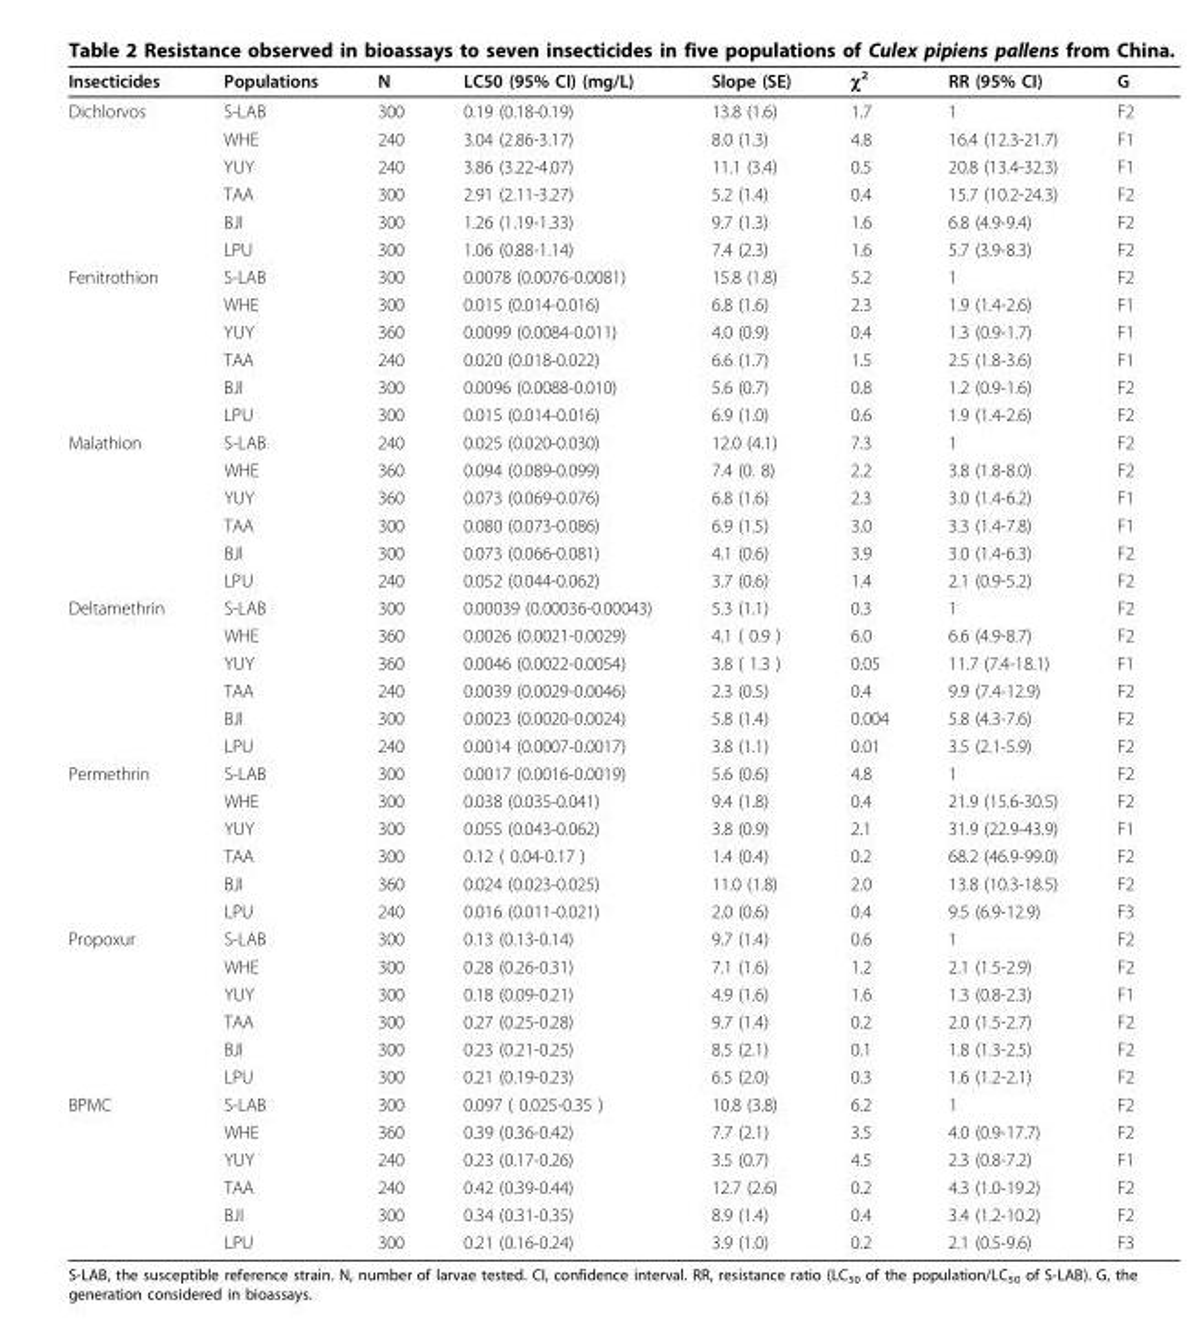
<table><thead><tr><td>Insecticides</td><td>Populations</td><td>N</td><td>LC50 (95% CI) (mg/L)</td><td>Slope (SE)</td><td>χ<sup>2</sup></td><td>RR (95% CI)</td><td>G</td></tr></thead><tbody><tr><td rowspan="6">Dichlorvos</td><td>S-LAB</td><td>300</td><td>0.19 (0.18-0.19)</td><td>13.8 (1.6)</td><td>1.7</td><td>1</td><td>F2</td></tr><tr><td>WHE</td><td>240</td><td>3.04 (2.86-3.17)</td><td>8.0 (1.3)</td><td>4.8</td><td>16.4 (12.3-21.7)</td><td>F1</td></tr><tr><td>YUY</td><td>240</td><td>3.86 (3.22-4.07)</td><td>11.1 (3.4)</td><td>0.5</td><td>20.8 (13.4-32.3)</td><td>F1</td></tr><tr><td>TAA</td><td>300</td><td>2.91 (2.11-3.27)</td><td>5.2 (1.4)</td><td>0.4</td><td>15.7 (10.2-24.3)</td><td>F2</td></tr><tr><td>BJI</td><td>300</td><td>1.26 (1.19-1.33)</td><td>9.7 (1.3)</td><td>1.6</td><td>6.8 (4.9-9.4)</td><td>F2</td></tr><tr><td>LPU</td><td>300</td><td>1.06 (0.88-1.14)</td><td>7.4 (2.3)</td><td>1.6</td><td>5.7 (3.9-8.3)</td><td>F2</td></tr><tr><td rowspan="6">Fenitrothion</td><td>S-LAB</td><td>300</td><td>0.0078 (0.0076-0.0081)</td><td>15.8 (1.8)</td><td>5.2</td><td>1</td><td>F2</td></tr><tr><td>WHE</td><td>300</td><td>0.015 (0.014-0.016)</td><td>6.8 (1.6)</td><td>2.3</td><td>1.9 (1.4-2.6)</td><td>F1</td></tr><tr><td>YUY</td><td>360</td><td>0.0099 (0.0084-0.011)</td><td>4.0 (0.9)</td><td>0.4</td><td>1.3 (0.9-1.7)</td><td>F1</td></tr><tr><td>TAA</td><td>240</td><td>0.020 (0.018-0.022)</td><td>6.6 (1.7)</td><td>1.5</td><td>2.5 (1.8-3.6)</td><td>F1</td></tr><tr><td>BJI</td><td>300</td><td>0.0096 (0.0088-0.010)</td><td>5.6 (0.7)</td><td>0.8</td><td>1.2 (0.9-1.6)</td><td>F2</td></tr><tr><td>LPU</td><td>300</td><td>0.015 (0.014-0.016)</td><td>6.9 (1.0)</td><td>0.6</td><td>1.9 (1.4-2.6)</td><td>F2</td></tr><tr><td rowspan="6">Malathion</td><td>S-LAB</td><td>240</td><td>0.025 (0.020-0.030)</td><td>12.0 (4.1)</td><td>7.3</td><td>1</td><td>F2</td></tr><tr><td>WHE</td><td>360</td><td>0.094 (0.089-0.099)</td><td>7.4 (0. 8)</td><td>2.2</td><td>3.8 (1.8-8.0)</td><td>F2</td></tr><tr><td>YUY</td><td>360</td><td>0.073 (0.069-0.076)</td><td>6.8 (1.6)</td><td>2.3</td><td>3.0 (1.4-6.2)</td><td>F1</td></tr><tr><td>TAA</td><td>300</td><td>0.080 (0.073-0.086)</td><td>6.9 (1.5)</td><td>3.0</td><td>3.3 (1.4-7.8)</td><td>F1</td></tr><tr><td>BJI</td><td>300</td><td>0.073 (0.066-0.081)</td><td>4.1 (0.6)</td><td>3.9</td><td>3.0 (1.4-6.3)</td><td>F2</td></tr><tr><td>LPU</td><td>240</td><td>0.052 (0.044-0.062)</td><td>3.7 (0.6)</td><td>1.4</td><td>2.1 (0.9-5.2)</td><td>F2</td></tr><tr><td rowspan="6">Deltamethrin</td><td>S-LAB</td><td>300</td><td>0.00039 (0.00036-0.00043)</td><td>5.3 (1.1)</td><td>0.3</td><td>1</td><td>F2</td></tr><tr><td>WHE</td><td>360</td><td>0.0026 (0.0021-0.0029)</td><td>4.1 ( 0.9 )</td><td>6.0</td><td>6.6 (4.9-8.7)</td><td>F2</td></tr><tr><td>YUY</td><td>360</td><td>0.0046 (0.0022-0.0054)</td><td>3.8 ( 1.3 )</td><td>0.05</td><td>11.7 (7.4-18.1)</td><td>F1</td></tr><tr><td>TAA</td><td>240</td><td>0.0039 (0.0029-0.0046)</td><td>2.3 (0.5)</td><td>0.4</td><td>9.9 (7.4-12.9)</td><td>F2</td></tr><tr><td>BJI</td><td>300</td><td>0.0023 (0.0020-0.0024)</td><td>5.8 (1.4)</td><td>0.004</td><td>5.8 (4.3-7.6)</td><td>F2</td></tr><tr><td>LPU</td><td>240</td><td>0.0014 (0.0007-0.0017)</td><td>3.8 (1.1)</td><td>0.01</td><td>3.5 (2.1-5.9)</td><td>F2</td></tr><tr><td rowspan="6">Permethrin</td><td>S-LAB</td><td>300</td><td>0.0017 (0.0016-0.0019)</td><td>5.6 (0.6)</td><td>4.8</td><td>1</td><td>F2</td></tr><tr><td>WHE</td><td>300</td><td>0.038 (0.035-0.041)</td><td>9.4 (1.8)</td><td>0.4</td><td>21.9 (15.6-30.5)</td><td>F2</td></tr><tr><td>YUY</td><td>300</td><td>0.055 (0.043-0.062)</td><td>3.8 (0.9)</td><td>2.1</td><td>31.9 (22.9-43.9)</td><td>F1</td></tr><tr><td>TAA</td><td>300</td><td>0.12 ( 0.04-0.17 )</td><td>1.4 (0.4)</td><td>0.2</td><td>68.2 (46.9-99.0)</td><td>F2</td></tr><tr><td>BJI</td><td>360</td><td>0.024 (0.023-0.025)</td><td>11.0 (1.8)</td><td>2.0</td><td>13.8 (10.3-18.5)</td><td>F2</td></tr><tr><td>LPU</td><td>240</td><td>0.016 (0.011-0.021)</td><td>2.0 (0.6)</td><td>0.4</td><td>9.5 (6.9-12.9)</td><td>F3</td></tr><tr><td rowspan="6">Propoxur</td><td>S-LAB</td><td>300</td><td>0.13 (0.13-0.14)</td><td>9.7 (1.4)</td><td>0.6</td><td>1</td><td>F2</td></tr><tr><td>WHE</td><td>300</td><td>0.28 (0.26-0.31)</td><td>7.1 (1.6)</td><td>1.2</td><td>2.1 (1.5-2.9)</td><td>F2</td></tr><tr><td>YUY</td><td>300</td><td>0.18 (0.09-0.21)</td><td>4.9 (1.6)</td><td>1.6</td><td>1.3 (0.8-2.3)</td><td>F1</td></tr><tr><td>TAA</td><td>300</td><td>0.27 (0.25-0.28)</td><td>9.7 (1.4)</td><td>0.2</td><td>2.0 (1.5-2.7)</td><td>F2</td></tr><tr><td>BJI</td><td>300</td><td>0.23 (0.21-0.25)</td><td>8.5 (2.1)</td><td>0.1</td><td>1.8 (1.3-2.5)</td><td>F2</td></tr><tr><td>LPU</td><td>300</td><td>0.21 (0.19-0.23)</td><td>6.5 (2.0)</td><td>0.3</td><td>1.6 (1.2-2.1)</td><td>F2</td></tr><tr><td rowspan="6">BPMC</td><td>S-LAB</td><td>300</td><td>0.097 ( 0.025-0.35 )</td><td>10.8 (3.8)</td><td>6.2</td><td>1</td><td>F2</td></tr><tr><td>WHE</td><td>360</td><td>0.39 (0.36-0.42)</td><td>7.7 (2.1)</td><td>3.5</td><td>4.0 (0.9-17.7)</td><td>F2</td></tr><tr><td>YUY</td><td>240</td><td>0.23 (0.17-0.26)</td><td>3.5 (0.7)</td><td>4.5</td><td>2.3 (0.8-7.2)</td><td>F1</td></tr><tr><td>TAA</td><td>240</td><td>0.42 (0.39-0.44)</td><td>12.7 (2.6)</td><td>0.2</td><td>4.3 (1.0-19.2)</td><td>F2</td></tr><tr><td>BJI</td><td>300</td><td>0.34 (0.31-0.35)</td><td>8.9 (1.4)</td><td>0.4</td><td>3.4 (1.2-10.2)</td><td>F2</td></tr><tr><td>LPU</td><td>300</td><td>0.21 (0.16-0.24)</td><td>3.9 (1.0)</td><td>0.2</td><td>2.1 (0.5-9.6)</td><td>F3</td></tr></tbody></table>